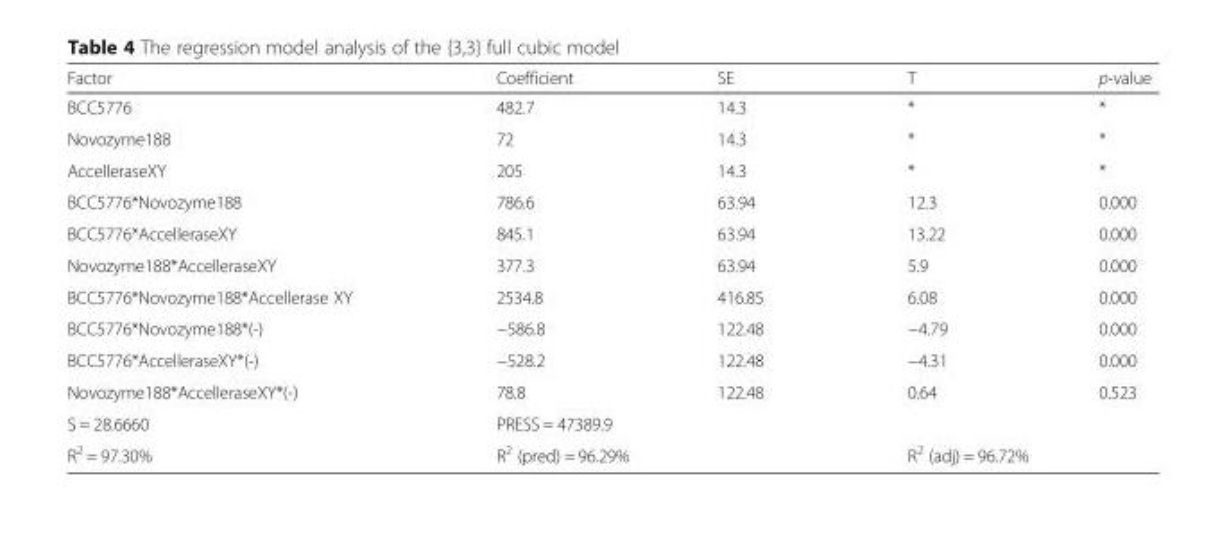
<table><thead><tr><td>Factor</td><td>Coefficient</td><td>SE</td><td>T</td><td>p-value</td></tr></thead><tbody><tr><td>BCC5776</td><td>482.7</td><td>14.3</td><td>*</td><td>*</td></tr><tr><td>Novozyme188</td><td>72</td><td>14.3</td><td>*</td><td>*</td></tr><tr><td>AccelleraseXY</td><td>205</td><td>14.3</td><td>*</td><td>*</td></tr><tr><td>BCC5776*Novozyme188</td><td>786.6</td><td>63.94</td><td>12.3</td><td>0.000</td></tr><tr><td>BCC5776*AccelleraseXY</td><td>845.1</td><td>63.94</td><td>13.22</td><td>0.000</td></tr><tr><td>Novozyme188*AccelleraseXY</td><td>377.3</td><td>63.94</td><td>5.9</td><td>0.000</td></tr><tr><td>BCC5776*Novozyme188*Accellerase XY</td><td>2534.8</td><td>416.85</td><td>6.08</td><td>0.000</td></tr><tr><td>BCC5776*Novozyme188*(-)</td><td>−586.8</td><td>122.48</td><td>−4.79</td><td>0.000</td></tr><tr><td>BCC5776*AccelleraseXY*(-)</td><td>−528.2</td><td>122.48</td><td>−4.31</td><td>0.000</td></tr><tr><td>Novozyme188*AccelleraseXY*(-)</td><td>78.8</td><td>122.48</td><td>0.64</td><td>0.523</td></tr><tr><td>S = 28.6660</td><td colspan="2">PRESS = 47389.9</td><td></td><td></td></tr><tr><td>R<sup>2</sup> = 97.30%</td><td colspan="2">R<sup>2</sup> (pred) = 96.29%</td><td colspan="2">R<sup>2</sup> (adj) = 96.72%</td></tr></tbody></table>